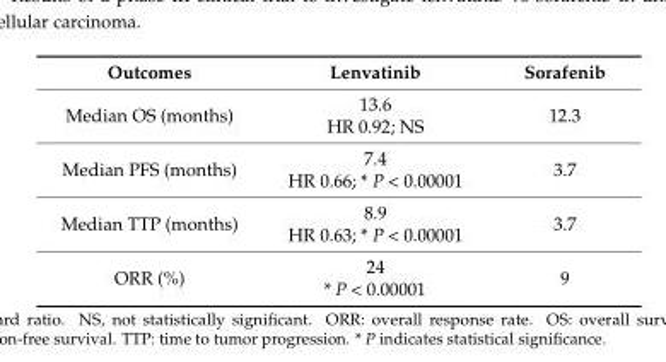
<table><thead><tr><td>Outcomes</td><td>Lenvatinib</td><td>Sorafenib</td></tr></thead><tbody><tr><td>Median OS (months)</td><td>13.6 HR 0.92; NS</td><td>12.3</td></tr><tr><td>Median PFS (months)</td><td>7.4 HR 0.66; * P &lt; 0.00001</td><td>3.7</td></tr><tr><td>Median TTP (months)</td><td>8.9 HR 0.63; * P &lt; 0.00001</td><td>3.7</td></tr><tr><td>ORR (%)</td><td>24 * P &lt; 0.00001</td><td>9</td></tr></tbody></table>